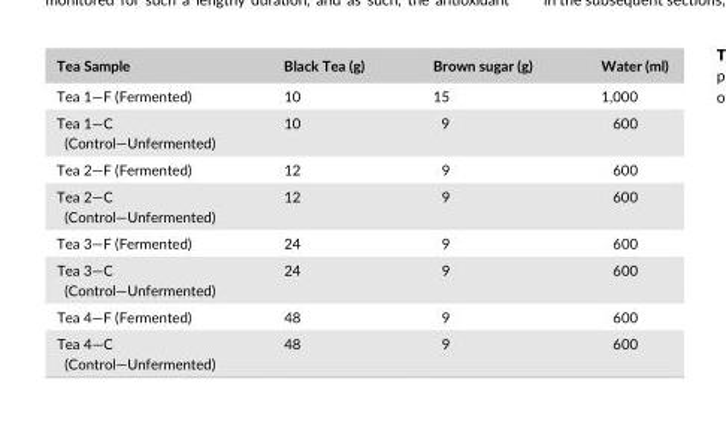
<table><thead><tr><td>Tea Sample</td><td>Black Tea (g)</td><td>Brown sugar (g)</td><td>Water (ml)</td></tr></thead><tbody><tr><td>Tea 1—F (Fermented)</td><td>10</td><td>15</td><td>1,000</td></tr><tr><td>Tea 1—C (Control—Unfermented)</td><td>10</td><td>9</td><td>600</td></tr><tr><td>Tea 2—F (Fermented)</td><td>12</td><td>9</td><td>600</td></tr><tr><td>Tea 2—C (Control—Unfermented)</td><td>12</td><td>9</td><td>600</td></tr><tr><td>Tea 3—F (Fermented)</td><td>24</td><td>9</td><td>600</td></tr><tr><td>Tea 3—C (Control—Unfermented)</td><td>24</td><td>9</td><td>600</td></tr><tr><td>Tea 4—F (Fermented)</td><td>48</td><td>9</td><td>600</td></tr><tr><td>Tea 4—C (Control—Unfermented)</td><td>48</td><td>9</td><td>600</td></tr></tbody></table>